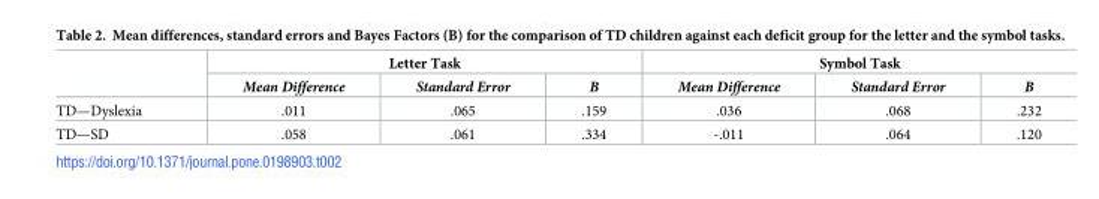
<table><thead><tr><td rowspan="2"></td><td colspan="3">Letter Task</td><td colspan="3">Symbol Task</td></tr><tr><td>Mean Difference</td><td>Standard Error</td><td>B</td><td>Mean Difference</td><td>Standard Error</td><td>B</td></tr></thead><tbody><tr><td>TD—Dyslexia</td><td>.011</td><td>.065</td><td>.159</td><td>.036</td><td>.068</td><td>.232</td></tr><tr><td>TD—SD</td><td>.058</td><td>.061</td><td>.334</td><td>-.011</td><td>.064</td><td>.120</td></tr></tbody></table>